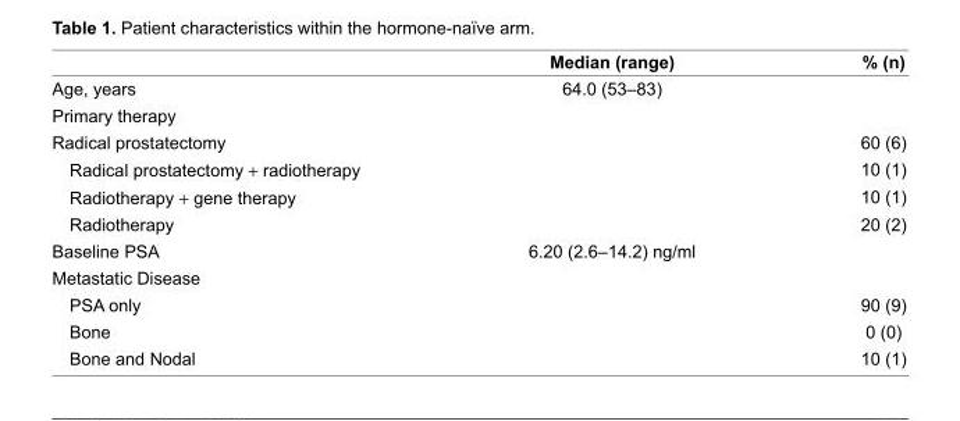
<table><thead><tr><td></td><td>Median (range)</td><td>% (n)</td></tr></thead><tbody><tr><td>Age, years</td><td>64.0 (53–83)</td><td></td></tr><tr><td colspan="3">Primary therapy</td></tr><tr><td>Radical prostatectomy</td><td></td><td>60 (6)</td></tr><tr><td>Radical prostatectomy + radiotherapy</td><td></td><td>10 (1)</td></tr><tr><td>Radiotherapy + gene therapy</td><td></td><td>10 (1)</td></tr><tr><td>Radiotherapy</td><td></td><td>20 (2)</td></tr><tr><td>Baseline PSA</td><td>6.20 (2.6–14.2) ng/ml</td><td></td></tr><tr><td colspan="3">Metastatic Disease</td></tr><tr><td>PSA only</td><td></td><td>90 (9)</td></tr><tr><td>Bone</td><td></td><td>0 (0)</td></tr><tr><td>Bone and Nodal</td><td></td><td>10 (1)</td></tr></tbody></table>